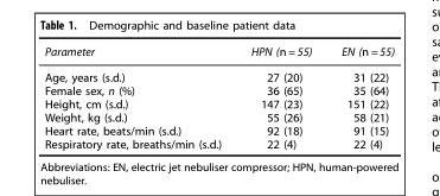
<table><thead><tr><td>Parameter</td><td>HPN (n = 55)</td><td>EN (n = 55)</td></tr></thead><tbody><tr><td>Age, years (s.d.)</td><td>27 (20)</td><td>31 (22)</td></tr><tr><td>Female sex, n (%)</td><td>36 (65)</td><td>35 (64)</td></tr><tr><td>Height, cm (s.d.)</td><td>147 (23)</td><td>151 (22)</td></tr><tr><td>Weight, kg (s.d.)</td><td>55 (26)</td><td>58 (21)</td></tr><tr><td>Heart rate, beats/min (s.d.)</td><td>92 (18)</td><td>91 (15)</td></tr><tr><td>Respiratory rate, breaths/min (s.d.)</td><td>22 (4)</td><td>22 (4)</td></tr></tbody></table>